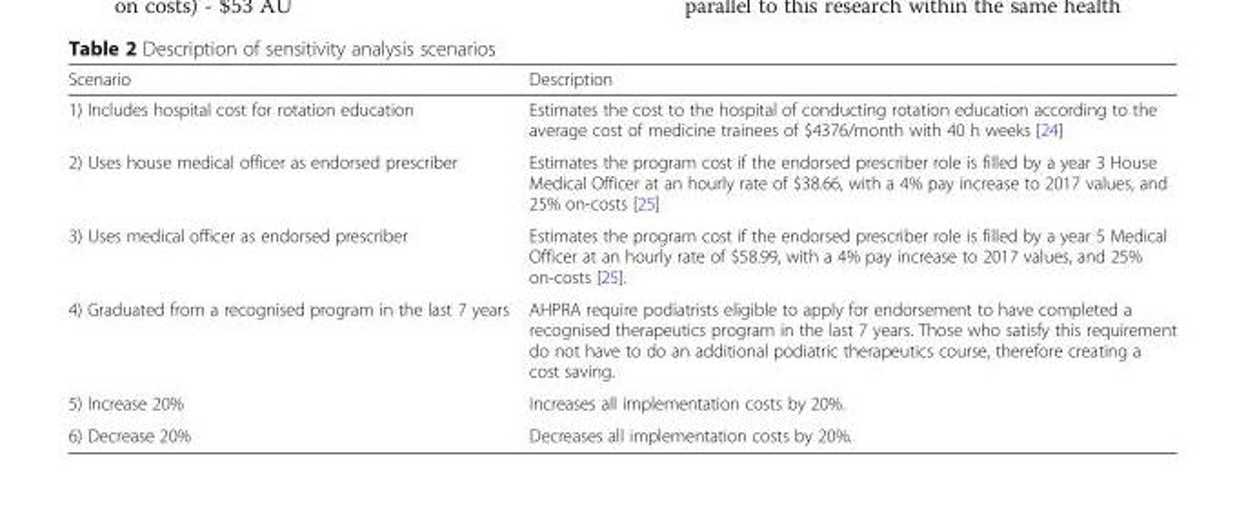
<table><thead><tr><td>Scenario</td><td>Description</td></tr></thead><tbody><tr><td>1) Includes hospital cost for rotation education</td><td>Estimates the cost to the hospital of conducting rotation education according to the average cost of medicine trainees of $4376/month with 40 h weeks [24]</td></tr><tr><td>2) Uses house medical officer as endorsed prescriber</td><td>Estimates the program cost if the endorsed prescriber role is filled by a year 3 House Medical Officer at an hourly rate of $38.66, with a 4% pay increase to 2017 values, and 25% on-costs [25]</td></tr><tr><td>3) Uses medical officer as endorsed prescriber</td><td>Estimates the program cost if the endorsed prescriber role is filled by a year 5 Medical Officer at an hourly rate of $58.99, with a 4% pay increase to 2017 values, and 25% on-costs [25].</td></tr><tr><td>4) Graduated from a recognised program in the last 7 years</td><td>AHPRA require podiatrists eligible to apply for endorsement to have completed a recognised therapeutics program in the last 7 years. Those who satisfy this requirement do not have to do an additional podiatric therapeutics course, therefore creating a cost saving.</td></tr><tr><td>5) Increase 20%</td><td>Increases all implementation costs by 20%.</td></tr><tr><td>6) Decrease 20%</td><td>Decreases all implementation costs by 20%.</td></tr></tbody></table>